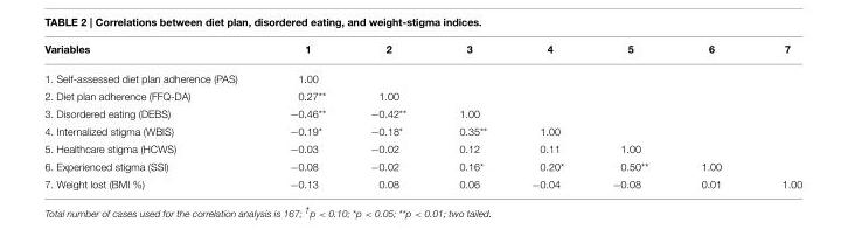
<table><thead><tr><td>Variables</td><td>1</td><td>2</td><td>3</td><td>4</td><td>5</td><td>6</td><td>7</td></tr></thead><tbody><tr><td>1. Self-assessed diet plan adherence (PAS)</td><td>1.00</td><td></td><td></td><td></td><td></td><td></td><td></td></tr><tr><td>2. Diet plan adherence (FFQ-DA)</td><td>0.27**</td><td>1.00</td><td></td><td></td><td></td><td></td><td></td></tr><tr><td>3. Disordered eating (DEBS)</td><td>−0.46**</td><td>−0.42**</td><td>1.00</td><td></td><td></td><td></td><td></td></tr><tr><td>4. Internalized stigma (WBIS)</td><td>−0.19*</td><td>−0.18*</td><td>0.35**</td><td>1.00</td><td></td><td></td><td></td></tr><tr><td>5. Healthcare stigma (HCWS)</td><td>−0.03</td><td>−0.02</td><td>0.12</td><td>0.11</td><td>1.00</td><td></td><td></td></tr><tr><td>6. Experienced stigma (SSI)</td><td>−0.08</td><td>−0.02</td><td>0.16*</td><td>0.20*</td><td>0.50**</td><td>1.00</td><td></td></tr><tr><td>7. Weight lost (BMI %)</td><td>−0.13</td><td>0.08</td><td>0.06</td><td>−0.04</td><td>−0.08</td><td>0.01</td><td>1.00</td></tr></tbody></table>